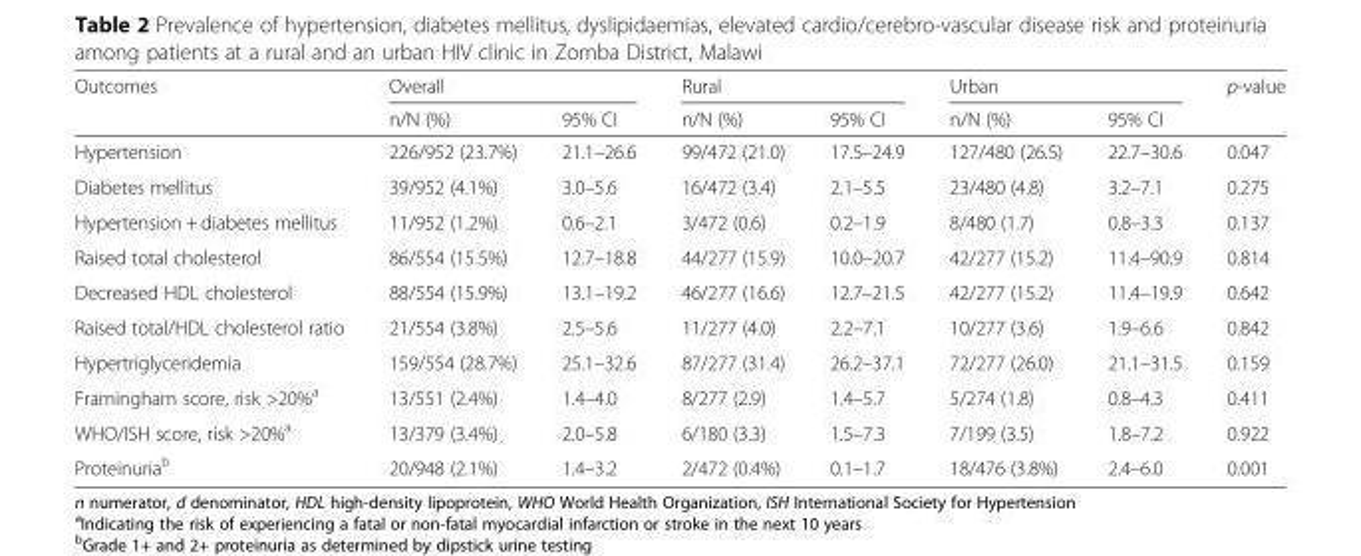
<table><thead><tr><td rowspan="2">Outcomes</td><td colspan="2">Overall</td><td colspan="2">Rural</td><td colspan="2">Urban</td><td rowspan="2">p-value</td></tr><tr><td>n/N (%)</td><td>95% CI</td><td>n/N (%)</td><td>95% CI</td><td>n/N (%)</td><td>95% CI</td></tr></thead><tbody><tr><td>Hypertension</td><td>226/952 (23.7%)</td><td>21.1–26.6</td><td>99/472 (21.0)</td><td>17.5–24.9</td><td>127/480 (26.5)</td><td>22.7–30.6</td><td>0.047</td></tr><tr><td>Diabetes mellitus</td><td>39/952 (4.1%)</td><td>3.0–5.6</td><td>16/472 (3.4)</td><td>2.1–5.5</td><td>23/480 (4.8)</td><td>3.2–7.1</td><td>0.275</td></tr><tr><td>Hypertension + diabetes mellitus</td><td>11/952 (1.2%)</td><td>0.6–2.1</td><td>3/472 (0.6)</td><td>0.2–1.9</td><td>8/480 (1.7)</td><td>0.8–3.3</td><td>0.137</td></tr><tr><td>Raised total cholesterol</td><td>86/554 (15.5%)</td><td>12.7–18.8</td><td>44/277 (15.9)</td><td>10.0–20.7</td><td>42/277 (15.2)</td><td>11.4–90.9</td><td>0.814</td></tr><tr><td>Decreased HDL cholesterol</td><td>88/554 (15.9%)</td><td>13.1–19.2</td><td>46/277 (16.6)</td><td>12.7–21.5</td><td>42/277 (15.2)</td><td>11.4–19.9</td><td>0.642</td></tr><tr><td>Raised total/HDL cholesterol ratio</td><td>21/554 (3.8%)</td><td>2.5–5.6</td><td>11/277 (4.0)</td><td>2.2–7.1</td><td>10/277 (3.6)</td><td>1.9–6.6</td><td>0.842</td></tr><tr><td>Hypertriglyceridemia</td><td>159/554 (28.7%)</td><td>25.1–32.6</td><td>87/277 (31.4)</td><td>26.2–37.1</td><td>72/277 (26.0)</td><td>21.1–31.5</td><td>0.159</td></tr><tr><td>Framingham score, risk &gt;20%<sup>a</sup></td><td>13/551 (2.4%)</td><td>1.4–4.0</td><td>8/277 (2.9)</td><td>1.4–5.7</td><td>5/274 (1.8)</td><td>0.8–4.3</td><td>0.411</td></tr><tr><td>WHO/ISH score, risk &gt;20%<sup>a</sup></td><td>13/379 (3.4%)</td><td>2.0–5.8</td><td>6/180 (3.3)</td><td>1.5–7.3</td><td>7/199 (3.5)</td><td>1.8–7.2</td><td>0.922</td></tr><tr><td>Proteinuria<sup>b</sup></td><td>20/948 (2.1%)</td><td>1.4–3.2</td><td>2/472 (0.4%)</td><td>0.1–1.7</td><td>18/476 (3.8%)</td><td>2.4–6.0</td><td>0.001</td></tr></tbody></table>